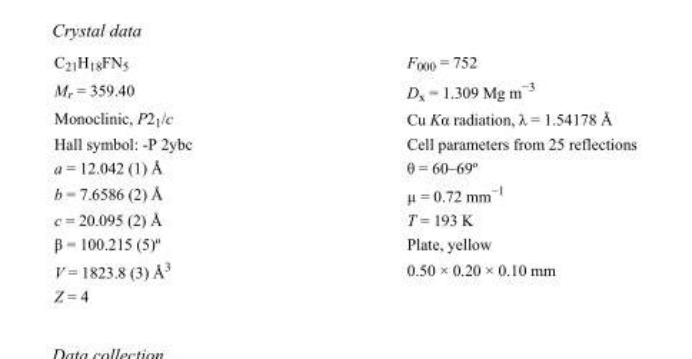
<table><tbody><tr><td>C<sub>21</sub>H<sub>18</sub>FN<sub>5</sub></td><td>F000 = 752</td></tr><tr><td>M<sub>r</sub> = 359.40</td><td>D<sub>x</sub> = 1.309 Mg m<sup>−3</sup></td></tr><tr><td>Monoclinic, P2<sub>1</sub>/c</td><td>Cu Kα radiation, λ = 1.54178 Å</td></tr><tr><td>Hall symbol: -P 2ybc</td><td>Cell parameters from 25 reflections</td></tr><tr><td>a = 12.042 (1) Å</td><td>θ = 60–69º</td></tr><tr><td>b = 7.6586 (2) Å</td><td>µ = 0.72 mm<sup>−1</sup></td></tr><tr><td>c = 20.095 (2) Å</td><td>T = 193 K</td></tr><tr><td>β = 100.215 (5)º</td><td>Plate, yellow</td></tr><tr><td>V = 1823.8 (3) Å<sup>3</sup></td><td>0.50 × 0.20 × 0.10 mm</td></tr><tr><td>Z = 4</td><td></td></tr></tbody></table>